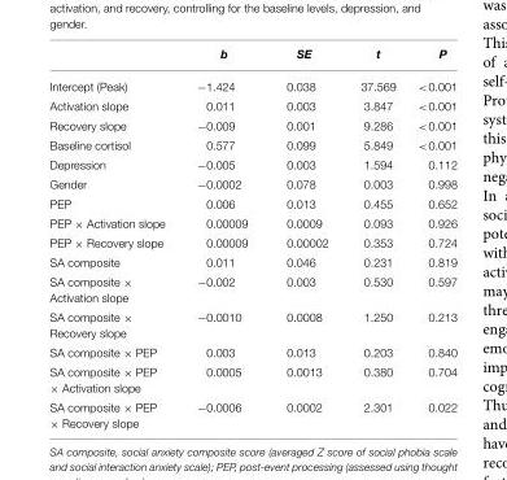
<table><thead><tr><td></td><td>b</td><td>SE</td><td>t</td><td>P</td></tr></thead><tbody><tr><td>Intercept (Peak)</td><td>−1.424</td><td>0.038</td><td>37.569</td><td>&lt;0.001</td></tr><tr><td>Activation slope</td><td>0.011</td><td>0.003</td><td>3.847</td><td>&lt;0.001</td></tr><tr><td>Recovery slope</td><td>−0.009</td><td>0.001</td><td>9.286</td><td>&lt;0.001</td></tr><tr><td>Baseline cortisol</td><td>0.577</td><td>0.099</td><td>5.849</td><td>&lt;0.001</td></tr><tr><td>Depression</td><td>−0.005</td><td>0.003</td><td>1.594</td><td>0.112</td></tr><tr><td>Gender</td><td>−0.0002</td><td>0.078</td><td>0.003</td><td>0.998</td></tr><tr><td>PEP</td><td>0.006</td><td>0.013</td><td>0.455</td><td>0.652</td></tr><tr><td>PEP × Activation slope</td><td>0.00009</td><td>0.0009</td><td>0.093</td><td>0.926</td></tr><tr><td>PEP × Recovery slope</td><td>0.00009</td><td>0.00002</td><td>0.353</td><td>0.724</td></tr><tr><td>SA composite</td><td>0.011</td><td>0.046</td><td>0.231</td><td>0.819</td></tr><tr><td>SA composite × Activation slope</td><td>−0.002</td><td>0.003</td><td>0.530</td><td>0.597</td></tr><tr><td>SA composite × Recovery slope</td><td>−0.0010</td><td>0.0008</td><td>1.250</td><td>0.213</td></tr><tr><td>SA composite × PEP</td><td>0.003</td><td>0.013</td><td>0.203</td><td>0.840</td></tr><tr><td>SA composite × PEP × Activation slope</td><td>0.0005</td><td>0.0013</td><td>0.380</td><td>0.704</td></tr><tr><td>SA composite × PEP × Recovery slope</td><td>−0.0006</td><td>0.0002</td><td>2.301</td><td>0.022</td></tr></tbody></table>